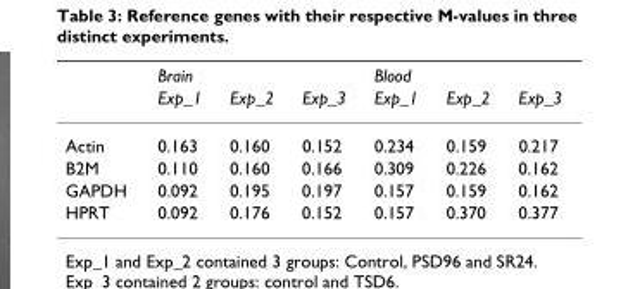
<table><thead><tr><td rowspan="2"></td><td colspan="3">Brain</td><td colspan="3">Blood</td></tr><tr><td>Exp_1</td><td>Exp_2</td><td>Exp_3</td><td>Exp_1</td><td>Exp_2</td><td>Exp_3</td></tr></thead><tbody><tr><td>Actin</td><td>0.163</td><td>0.160</td><td>0.152</td><td>0.234</td><td>0.159</td><td>0.217</td></tr><tr><td>B2M</td><td>0.110</td><td>0.160</td><td>0.166</td><td>0.309</td><td>0.226</td><td>0.162</td></tr><tr><td>GAPDH</td><td>0.092</td><td>0.195</td><td>0.197</td><td>0.157</td><td>0.159</td><td>0.162</td></tr><tr><td>HPRT</td><td>0.092</td><td>0.176</td><td>0.152</td><td>0.157</td><td>0.370</td><td>0.377</td></tr></tbody></table>